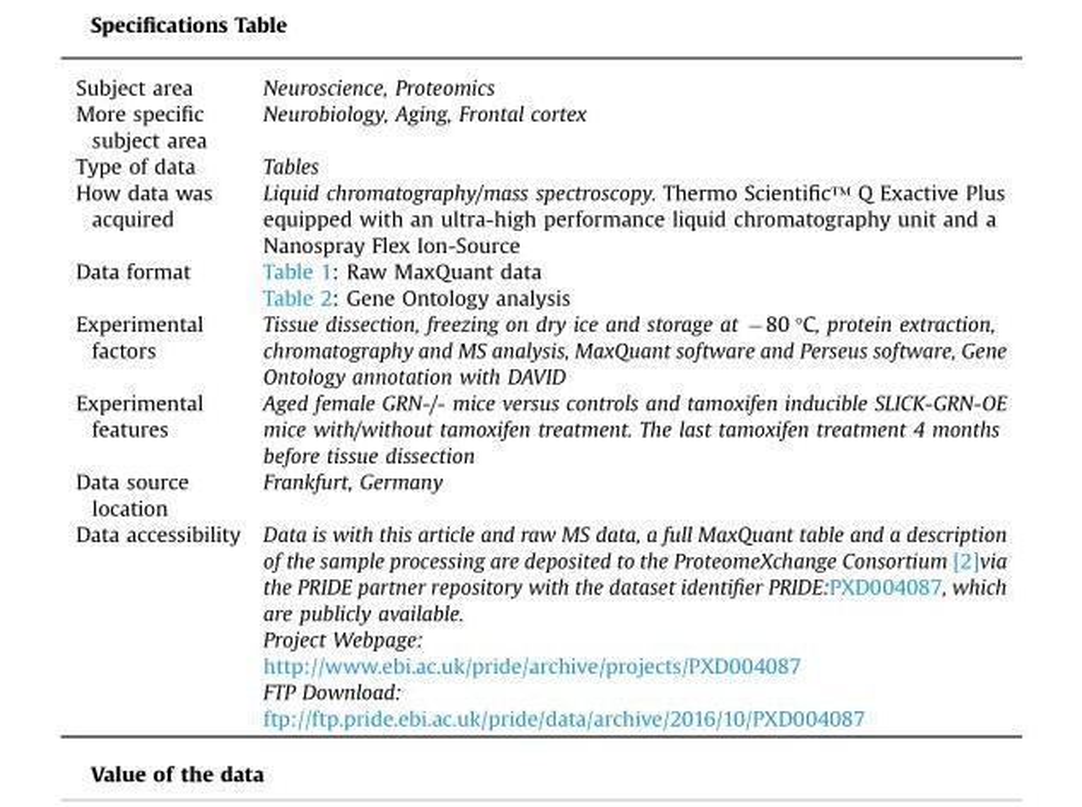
<table><tbody><tr><td>Subject area</td><td>Neuroscience, Proteomics</td></tr><tr><td>More specific subject area</td><td>Neurobiology, Aging, Frontal cortex</td></tr><tr><td>Type of data</td><td>Tables</td></tr><tr><td>How data was acquired</td><td>Liquid chromatography/mass spectroscopy. Thermo Scientific™ Q Exactive Plus equipped with an ultra-high performance liquid chromatography unit and a Nanospray Flex Ion-Source</td></tr><tr><td rowspan="2">Data format</td><td>Table 1: Raw MaxQuant data</td></tr><tr><td>Table 2: Gene Ontology analysis</td></tr><tr><td>Experimental factors</td><td>Tissue dissection, freezing on dry ice and storage at −80 °C, protein extraction, chromatography and MS analysis, MaxQuant software and Perseus software, Gene Ontology annotation with DAVID</td></tr><tr><td>Experimental features</td><td>Aged female GRN-/- mice versus controls and tamoxifen inducible SLICK-GRN-OE mice with/without tamoxifen treatment. The last tamoxifen treatment 4 months before tissue dissection</td></tr><tr><td>Data source location</td><td>Frankfurt, Germany</td></tr><tr><td rowspan="5">Data accessibility</td><td>Data is with this article and raw MS data, a full MaxQuant table and a description of the sample processing are deposited to the ProteomeXchange Consortium [2]via the PRIDE partner repository with the dataset identifier PRIDE:PXD004087, which are publicly available.</td></tr><tr><td>Project Webpage:</td></tr><tr><td>http://www.ebi.ac.uk/pride/archive/projects/PXD004087</td></tr><tr><td>FTP Download:</td></tr><tr><td>ftp://ftp.pride.ebi.ac.uk/pride/data/archive/2016/10/PXD004087</td></tr></tbody></table>